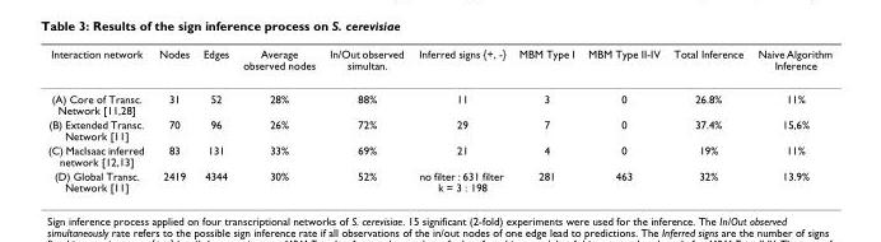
<table><thead><tr><td>Interaction network</td><td>Nodes</td><td>Edges</td><td>Average observed nodes</td><td>In/Out observed simultan.</td><td>Inferred signs {+, -}</td><td>MBM Type I</td><td>MBM Type II-IV</td><td>Total Inference</td><td>Naive Algorithm Inference</td></tr></thead><tbody><tr><td>(A) Core of Transc. Network [11,28]</td><td>31</td><td>52</td><td>28%</td><td>88%</td><td>11</td><td>3</td><td>0</td><td>26.8%</td><td>11%</td></tr><tr><td>(B) Extended Transc. Network [11]</td><td>70</td><td>96</td><td>26%</td><td>72%</td><td>29</td><td>7</td><td>0</td><td>37.4%</td><td>15,6%</td></tr><tr><td>(C) MacIsaac inferred network [12,13]</td><td>83</td><td>131</td><td>33%</td><td>69%</td><td>21</td><td>4</td><td>0</td><td>19%</td><td>11%</td></tr><tr><td>(D) Global Transc. Network [11]</td><td>2419</td><td>4344</td><td>30%</td><td>52%</td><td>no filter : 631 filter k = 3 : 198</td><td>281</td><td>463</td><td>32%</td><td>13.9%</td></tr></tbody></table>